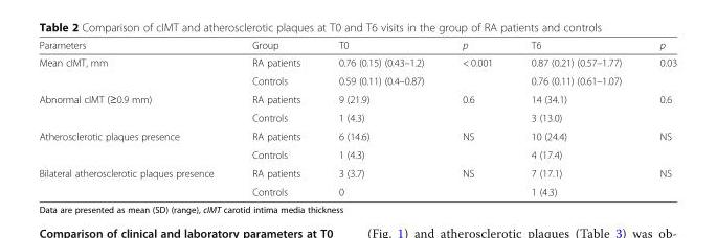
<table><thead><tr><td>Parameters</td><td>Group</td><td>T0</td><td>p</td><td>T6</td><td>p</td></tr></thead><tbody><tr><td rowspan="2">Mean cIMT, mm</td><td>RA patients</td><td>0.76 (0.15) (0.43–1.2)</td><td rowspan="2">&lt; 0.001</td><td>0.87 (0.21) (0.57–1.77)</td><td rowspan="2">0.03</td></tr><tr><td>Controls</td><td>0.59 (0.11) (0.4–0.87)</td><td>0.76 (0.11) (0.61–1.07)</td></tr><tr><td rowspan="2">Abnormal cIMT (≥0.9 mm)</td><td>RA patients</td><td>9 (21.9)</td><td rowspan="2">0.6</td><td>14 (34.1)</td><td rowspan="2">0.6</td></tr><tr><td>Controls</td><td>1 (4.3)</td><td>3 (13.0)</td></tr><tr><td rowspan="2">Atherosclerotic plaques presence</td><td>RA patients</td><td>6 (14.6)</td><td rowspan="2">NS</td><td>10 (24.4)</td><td rowspan="2">NS</td></tr><tr><td>Controls</td><td>1 (4.3)</td><td>4 (17.4)</td></tr><tr><td rowspan="2">Bilateral atherosclerotic plaques presence</td><td>RA patients</td><td>3 (3.7)</td><td rowspan="2">NS</td><td>7 (17.1)</td><td rowspan="2">NS</td></tr><tr><td>Controls</td><td>0</td><td>1 (4.3)</td></tr></tbody></table>